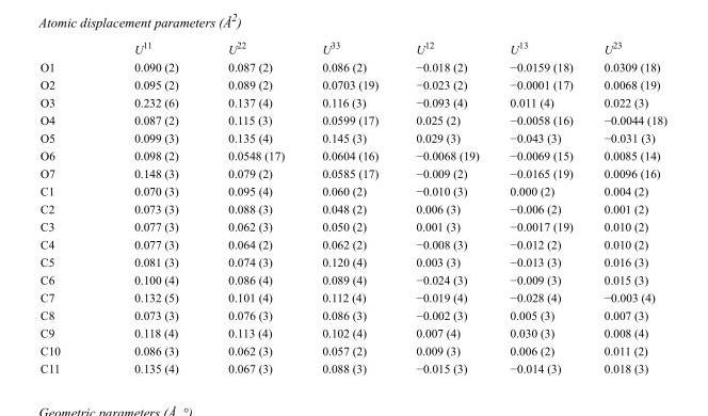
<table><thead><tr><td></td><td>U<sup>11</sup></td><td>U<sup>22</sup></td><td>U<sup>33</sup></td><td>U<sup>12</sup></td><td>U<sup>13</sup></td><td>U<sup>23</sup></td></tr></thead><tbody><tr><td>O1</td><td>0.090 (2)</td><td>0.087 (2)</td><td>0.086 (2)</td><td>−0.018 (2)</td><td>−0.0159 (18)</td><td>0.0309 (18)</td></tr><tr><td>O2</td><td>0.095 (2)</td><td>0.089 (2)</td><td>0.0703 (19)</td><td>−0.023 (2)</td><td>−0.0001 (17)</td><td>0.0068 (19)</td></tr><tr><td>O3</td><td>0.232 (6)</td><td>0.137 (4)</td><td>0.116 (3)</td><td>−0.093 (4)</td><td>0.011 (4)</td><td>0.022 (3)</td></tr><tr><td>O4</td><td>0.087 (2)</td><td>0.115 (3)</td><td>0.0599 (17)</td><td>0.025 (2)</td><td>−0.0058 (16)</td><td>−0.0044 (18)</td></tr><tr><td>O5</td><td>0.099 (3)</td><td>0.135 (4)</td><td>0.145 (3)</td><td>0.029 (3)</td><td>−0.043 (3)</td><td>−0.031 (3)</td></tr><tr><td>O6</td><td>0.098 (2)</td><td>0.0548 (17)</td><td>0.0604 (16)</td><td>−0.0068 (19)</td><td>−0.0069 (15)</td><td>0.0085 (14)</td></tr><tr><td>O7</td><td>0.148 (3)</td><td>0.079 (2)</td><td>0.0585 (17)</td><td>−0.009 (2)</td><td>−0.0165 (19)</td><td>0.0096 (16)</td></tr><tr><td>C1</td><td>0.070 (3)</td><td>0.095 (4)</td><td>0.060 (2)</td><td>−0.010 (3)</td><td>0.000 (2)</td><td>0.004 (2)</td></tr><tr><td>C2</td><td>0.073 (3)</td><td>0.088 (3)</td><td>0.048 (2)</td><td>0.006 (3)</td><td>−0.006 (2)</td><td>0.001 (2)</td></tr><tr><td>C3</td><td>0.077 (3)</td><td>0.062 (3)</td><td>0.050 (2)</td><td>0.001 (3)</td><td>−0.0017 (19)</td><td>0.010 (2)</td></tr><tr><td>C4</td><td>0.077 (3)</td><td>0.064 (2)</td><td>0.062 (2)</td><td>−0.008 (3)</td><td>−0.012 (2)</td><td>0.010 (2)</td></tr><tr><td>C5</td><td>0.081 (3)</td><td>0.074 (3)</td><td>0.120 (4)</td><td>0.003 (3)</td><td>−0.013 (3)</td><td>0.016 (3)</td></tr><tr><td>C6</td><td>0.100 (4)</td><td>0.086 (4)</td><td>0.089 (4)</td><td>−0.024 (3)</td><td>−0.009 (3)</td><td>0.015 (3)</td></tr><tr><td>C7</td><td>0.132 (5)</td><td>0.101 (4)</td><td>0.112 (4)</td><td>−0.019 (4)</td><td>−0.028 (4)</td><td>−0.003 (4)</td></tr><tr><td>C8</td><td>0.073 (3)</td><td>0.076 (3)</td><td>0.086 (3)</td><td>−0.002 (3)</td><td>0.005 (3)</td><td>0.007 (3)</td></tr><tr><td>C9</td><td>0.118 (4)</td><td>0.113 (4)</td><td>0.102 (4)</td><td>0.007 (4)</td><td>0.030 (3)</td><td>0.008 (4)</td></tr><tr><td>C10</td><td>0.086 (3)</td><td>0.062 (3)</td><td>0.057 (2)</td><td>0.009 (3)</td><td>0.006 (2)</td><td>0.011 (2)</td></tr><tr><td>C11</td><td>0.135 (4)</td><td>0.067 (3)</td><td>0.088 (3)</td><td>−0.015 (3)</td><td>−0.014 (3)</td><td>0.018 (3)</td></tr></tbody></table>